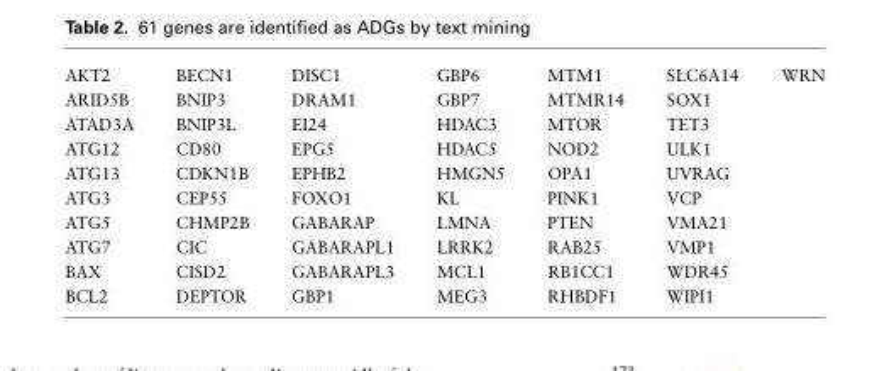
<table><tbody><tr><td>AKT2</td><td>BECN1</td><td>DISC1</td><td>GBP6</td><td>MTM1</td><td>SLC6A14</td><td>WRN</td></tr><tr><td>ARID5B</td><td>BNIP3</td><td>DRAM1</td><td>GBP7</td><td>MTMR14</td><td>SOX1</td><td></td></tr><tr><td>ATAD3A</td><td>BNIP3L</td><td>EI24</td><td>HDAC3</td><td>MTOR</td><td>TET3</td><td></td></tr><tr><td>ATG12</td><td>CD80</td><td>EPG5</td><td>HDAC5</td><td>NOD2</td><td>ULK1</td><td></td></tr><tr><td>ATG13</td><td>CDKN1B</td><td>EPHB2</td><td>HMGN5</td><td>OPA1</td><td>UVRAG</td><td></td></tr><tr><td>ATG3</td><td>CEP55</td><td>FOXO1</td><td>KL</td><td>PINK1</td><td>VCP</td><td></td></tr><tr><td>ATG5</td><td>CHMP2B</td><td>GABARAP</td><td>LMNA</td><td>PTEN</td><td>VMA21</td><td></td></tr><tr><td>ATG7</td><td>CIC</td><td>GABARAPL1</td><td>LRRK2</td><td>RAB25</td><td>VMP1</td><td></td></tr><tr><td>BAX</td><td>CISD2</td><td>GABARAPL3</td><td>MCL1</td><td>RB1CC1</td><td>WDR45</td><td></td></tr><tr><td>BCL2</td><td>DEPTOR</td><td>GBP1</td><td>MEG3</td><td>RHBDF1</td><td>WIPI1</td><td></td></tr></tbody></table>